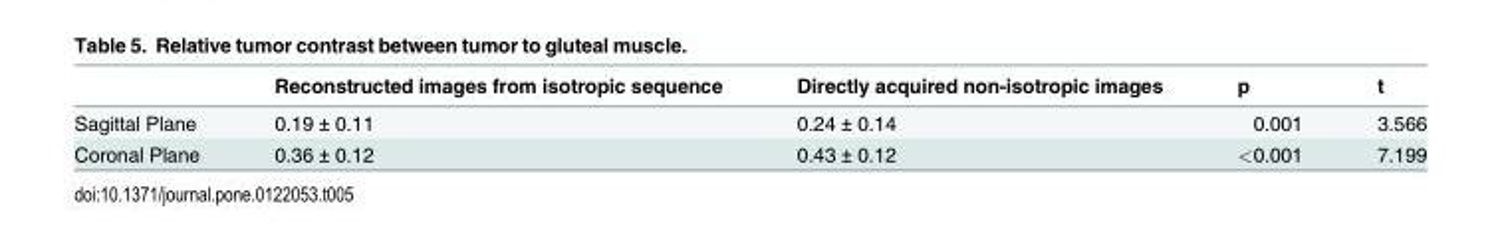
<table><thead><tr><td></td><td>Reconstructed images from isotropic sequence</td><td>Directly acquired non-isotropic images</td><td>p</td><td>t</td></tr></thead><tbody><tr><td>Sagittal Plane</td><td>0.19 ± 0.11</td><td>0.24 ± 0.14</td><td>0.001</td><td>3.566</td></tr><tr><td>Coronal Plane</td><td>0.36 ± 0.12</td><td>0.43 ± 0.12</td><td>&lt;0.001</td><td>7.199</td></tr></tbody></table>